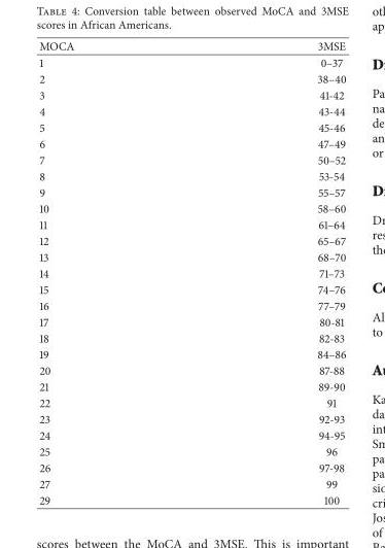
<table><thead><tr><td>MOCA</td><td>3MSE</td></tr></thead><tbody><tr><td>1</td><td>0–37</td></tr><tr><td>2</td><td>38–40</td></tr><tr><td>3</td><td>41-42</td></tr><tr><td>4</td><td>43-44</td></tr><tr><td>5</td><td>45-46</td></tr><tr><td>6</td><td>47–49</td></tr><tr><td>7</td><td>50–52</td></tr><tr><td>8</td><td>53-54</td></tr><tr><td>9</td><td>55–57</td></tr><tr><td>10</td><td>58–60</td></tr><tr><td>11</td><td>61–64</td></tr><tr><td>12</td><td>65–67</td></tr><tr><td>13</td><td>68–70</td></tr><tr><td>14</td><td>71–73</td></tr><tr><td>15</td><td>74–76</td></tr><tr><td>16</td><td>77–79</td></tr><tr><td>17</td><td>80-81</td></tr><tr><td>18</td><td>82-83</td></tr><tr><td>19</td><td>84–86</td></tr><tr><td>20</td><td>87-88</td></tr><tr><td>21</td><td>89-90</td></tr><tr><td>22</td><td>91</td></tr><tr><td>23</td><td>92-93</td></tr><tr><td>24</td><td>94-95</td></tr><tr><td>25</td><td>96</td></tr><tr><td>26</td><td>97-98</td></tr><tr><td>27</td><td>99</td></tr><tr><td>29</td><td>100</td></tr></tbody></table>